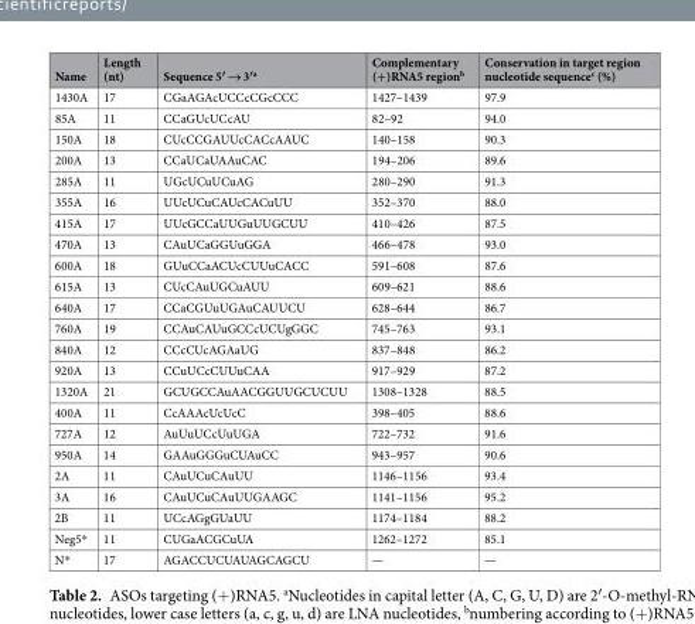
<table><thead><tr><td>Name</td><td>Length (nt)</td><td>Sequence 5′ → 3′<sup>a</sup></td><td>Complementary (+)RNA5 region<sup>b</sup></td><td>Conservation in target region nucleotide sequence<sup>c</sup> (%)</td></tr></thead><tbody><tr><td>1430A</td><td>17</td><td>CGaAGAcUCCcCGcCCC</td><td>1427–1439</td><td>97.9</td></tr><tr><td>85A</td><td>11</td><td>CCaGUcUCcAU</td><td>82–92</td><td>94.0</td></tr><tr><td>150A</td><td>18</td><td>CUcCCGAUUcCACcAAUC</td><td>140–158</td><td>90.3</td></tr><tr><td>200A</td><td>13</td><td>CCaUCaUAAuCAC</td><td>194–206</td><td>89.6</td></tr><tr><td>285A</td><td>11</td><td>UGcUCuUCuAG</td><td>280–290</td><td>91.3</td></tr><tr><td>355A</td><td>16</td><td>UUcUCuCAUcCACuUU</td><td>352–370</td><td>88.0</td></tr><tr><td>415A</td><td>17</td><td>UUcGCCaUUGuUUGCUU</td><td>410–426</td><td>87.5</td></tr><tr><td>470A</td><td>13</td><td>CAuUCaGGUuGGA</td><td>466–478</td><td>93.0</td></tr><tr><td>600A</td><td>18</td><td>GUuCCaACUcCUUuCACC</td><td>591–608</td><td>87.6</td></tr><tr><td>615A</td><td>13</td><td>CUcCAuUGCuAUU</td><td>609–621</td><td>88.6</td></tr><tr><td>640A</td><td>17</td><td>CCaCGUuUGAuCAUUCU</td><td>628–644</td><td>86.7</td></tr><tr><td>760A</td><td>19</td><td>CCAuCAUuGCCcUCUgGGC</td><td>745–763</td><td>93.1</td></tr><tr><td>840A</td><td>12</td><td>CCcCUcAGAaUG</td><td>837–848</td><td>86.2</td></tr><tr><td>920A</td><td>13</td><td>CCuUCcCUUuCAA</td><td>917–929</td><td>87.2</td></tr><tr><td>1320A</td><td>21</td><td>GCUGCCAuAACGGUUGCUCUU</td><td>1308–1328</td><td>88.5</td></tr><tr><td>400A</td><td>11</td><td>CcAAAcUcUcC</td><td>398–405</td><td>88.6</td></tr><tr><td>727A</td><td>12</td><td>AuUuUCcUuUGA</td><td>722–732</td><td>91.6</td></tr><tr><td>950A</td><td>14</td><td>GAAuGGGuCUAuCC</td><td>943–957</td><td>90.6</td></tr><tr><td>2A</td><td>11</td><td>CAuUCuCAuUU</td><td>1146–1156</td><td>93.4</td></tr><tr><td>3A</td><td>16</td><td>CAuUCuCAuUUGAAGC</td><td>1141–1156</td><td>95.2</td></tr><tr><td>2B</td><td>11</td><td>UCcAGgGUaUU</td><td>1174–1184</td><td>88.2</td></tr><tr><td>Neg5*</td><td>11</td><td>CUGaACGCuUA</td><td>1262–1272</td><td>85.1</td></tr><tr><td>N*</td><td>17</td><td>AGACCUCUAUAGCAGCU</td><td>—</td><td>—</td></tr></tbody></table>